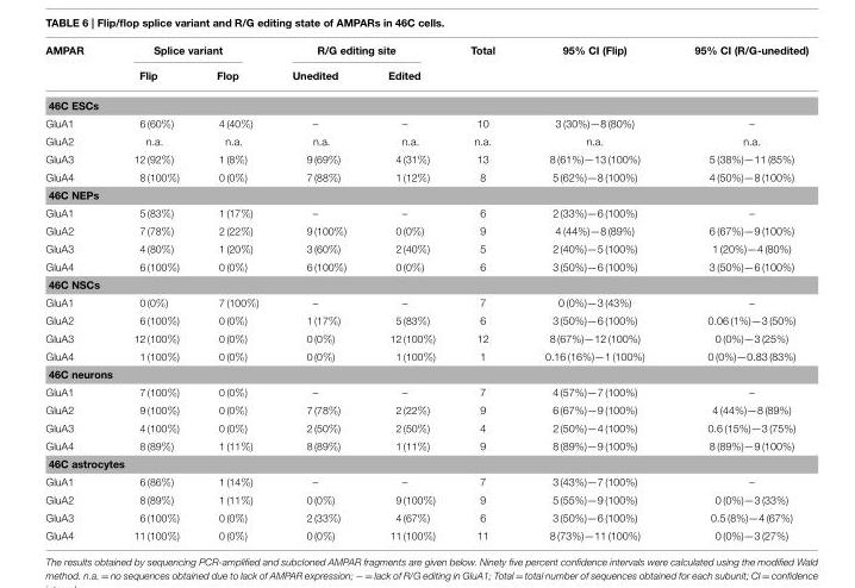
<table><thead><tr><td rowspan="2">AMPAR</td><td colspan="2">Splice variant</td><td colspan="2">R/G editing site</td><td rowspan="2">Total</td><td rowspan="2">95% CI (Flip)</td><td rowspan="2">95% CI (R/G-unedited)</td></tr><tr><td>Flip</td><td>Flop</td><td>Unedited</td><td>Edited</td></tr></thead><tbody><tr><td colspan="8">46C ESCs</td></tr><tr><td>GluA1</td><td>6 (60%)</td><td>4 (40%)</td><td>–</td><td>–</td><td>10</td><td>3 (30%)—8 (80%)</td><td>–</td></tr><tr><td>GluA2</td><td>n.a.</td><td>n.a.</td><td>n.a.</td><td>n.a.</td><td>n.a.</td><td>n.a.</td><td>n.a.</td></tr><tr><td>GluA3</td><td>12 (92%)</td><td>1 (8%)</td><td>9 (69%)</td><td>4 (31%)</td><td>13</td><td>8 (61%)—13 (100%)</td><td>5 (38%)—11 (85%)</td></tr><tr><td>GluA4</td><td>8 (100%)</td><td>0 (0%)</td><td>7 (88%)</td><td>1 (12%)</td><td>8</td><td>5 (62%)—8 (100%)</td><td>4 (50%)—8 (100%)</td></tr><tr><td colspan="8">46C NEPs</td></tr><tr><td>GluA1</td><td>5 (83%)</td><td>1 (17%)</td><td>–</td><td>–</td><td>6</td><td>2 (33%)—6 (100%)</td><td>–</td></tr><tr><td>GluA2</td><td>7 (78%)</td><td>2 (22%)</td><td>9 (100%)</td><td>0 (0%)</td><td>9</td><td>4 (44%)—8 (89%)</td><td>6 (67%)—9 (100%)</td></tr><tr><td>GluA3</td><td>4 (80%)</td><td>1 (20%)</td><td>3 (60%)</td><td>2 (40%)</td><td>5</td><td>2 (40%)—5 (100%)</td><td>1 (20%)—4 (80%)</td></tr><tr><td>GluA4</td><td>6 (100%)</td><td>0 (0%)</td><td>6 (100%)</td><td>0 (0%)</td><td>6</td><td>3 (50%)—6 (100%)</td><td>3 (50%)—6 (100%)</td></tr><tr><td colspan="8">46C NSCs</td></tr><tr><td>GluA1</td><td>0 (0%)</td><td>7 (100%)</td><td>–</td><td>–</td><td>7</td><td>0 (0%)—3 (43%)</td><td>–</td></tr><tr><td>GluA2</td><td>6 (100%)</td><td>0 (0%)</td><td>1 (17%)</td><td>5 (83%)</td><td>6</td><td>3 (50%)—6 (100%)</td><td>0.06 (1%)—3 (50%)</td></tr><tr><td>GluA3</td><td>12 (100%)</td><td>0 (0%)</td><td>0 (0%)</td><td>12 (100%)</td><td>12</td><td>8 (67%)—12 (100%)</td><td>0 (0%)—3 (25%)</td></tr><tr><td>GluA4</td><td>1 (100%)</td><td>0 (0%)</td><td>0 (0%)</td><td>1 (100%)</td><td>1</td><td>0.16 (16%)—1 (100%)</td><td>0 (0%)—0.83 (83%)</td></tr><tr><td colspan="8">46C neurons</td></tr><tr><td>GluA1</td><td>7 (100%)</td><td>0 (0%)</td><td>–</td><td>–</td><td>7</td><td>4 (57%)—7 (100%)</td><td>–</td></tr><tr><td>GluA2</td><td>9 (100%)</td><td>0 (0%)</td><td>7 (78%)</td><td>2 (22%)</td><td>9</td><td>6 (67%)—9 (100%)</td><td>4 (44%)—8 (89%)</td></tr><tr><td>GluA3</td><td>4 (100%)</td><td>0 (0%)</td><td>2 (50%)</td><td>2 (50%)</td><td>4</td><td>2 (50%)—4 (100%)</td><td>0.6 (15%)—3 (75%)</td></tr><tr><td>GluA4</td><td>8 (89%)</td><td>1 (11%)</td><td>8 (89%)</td><td>1 (11%)</td><td>9</td><td>8 (89%)—9 (100%)</td><td>8 (89%)—9 (100%)</td></tr><tr><td colspan="8">46C astrocytes</td></tr><tr><td>GluA1</td><td>6 (86%)</td><td>1 (14%)</td><td>–</td><td>–</td><td>7</td><td>3 (43%)—7 (100%)</td><td>–</td></tr><tr><td>GluA2</td><td>8 (89%)</td><td>1 (11%)</td><td>0 (0%)</td><td>9 (100%)</td><td>9</td><td>5 (55%)—9 (100%)</td><td>0 (0%)—3 (33%)</td></tr><tr><td>GluA3</td><td>6 (100%)</td><td>0 (0%)</td><td>2 (33%)</td><td>4 (67%)</td><td>6</td><td>3 (50%)—6 (100%)</td><td>0.5 (8%)—4 (67%)</td></tr><tr><td>GluA4</td><td>11 (100%)</td><td>0 (0%)</td><td>0 (0%)</td><td>11 (100%)</td><td>11</td><td>8 (73%)—11 (100%)</td><td>0 (0%)—3 (27%)</td></tr></tbody></table>